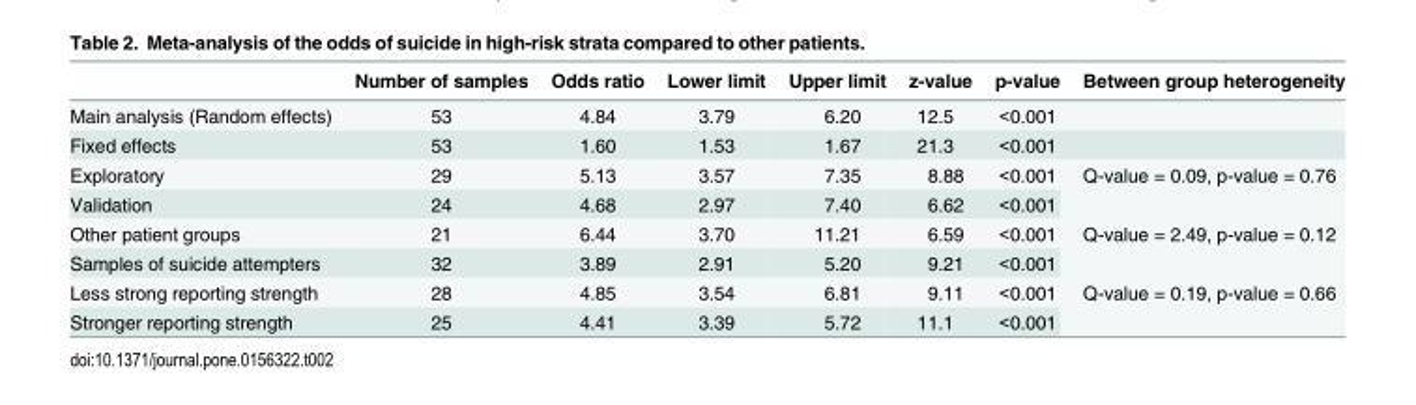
<table><thead><tr><td></td><td>Number of samples</td><td>Odds ratio</td><td>Lower limit</td><td>Upper limit</td><td>z-value</td><td>p-value</td><td>Between group heterogeneity</td></tr></thead><tbody><tr><td>Main analysis (Random effects)</td><td>53</td><td>4.84</td><td>3.79</td><td>6.20</td><td>12.5</td><td>&lt;0.001</td><td></td></tr><tr><td>Fixed effects</td><td>53</td><td>1.60</td><td>1.53</td><td>1.67</td><td>21.3</td><td>&lt;0.001</td><td></td></tr><tr><td>Exploratory</td><td>29</td><td>5.13</td><td>3.57</td><td>7.35</td><td>8.88</td><td>&lt;0.001</td><td rowspan="2">Q-value = 0.09, p-value = 0.76</td></tr><tr><td>Validation</td><td>24</td><td>4.68</td><td>2.97</td><td>7.40</td><td>6.62</td><td>&lt;0.001</td></tr><tr><td>Other patient groups</td><td>21</td><td>6.44</td><td>3.70</td><td>11.21</td><td>6.59</td><td>&lt;0.001</td><td rowspan="2">Q-value = 2.49, p-value = 0.12</td></tr><tr><td>Samples of suicide attempters</td><td>32</td><td>3.89</td><td>2.91</td><td>5.20</td><td>9.21</td><td>&lt;0.001</td></tr><tr><td>Less strong reporting strength</td><td>28</td><td>4.85</td><td>3.54</td><td>6.81</td><td>9.11</td><td>&lt;0.001</td><td rowspan="2">Q-value = 0.19, p-value = 0.66</td></tr><tr><td>Stronger reporting strength</td><td>25</td><td>4.41</td><td>3.39</td><td>5.72</td><td>11.1</td><td>&lt;0.001</td></tr></tbody></table>